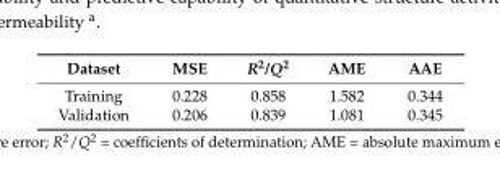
<table><thead><tr><td>Dataset</td><td>MSE</td><td>R<sup>2</sup>/Q<sup>2</sup></td><td>AME</td><td>AAE</td></tr></thead><tbody><tr><td>Training</td><td>0.228</td><td>0.858</td><td>1.582</td><td>0.344</td></tr><tr><td>Validation</td><td>0.206</td><td>0.839</td><td>1.081</td><td>0.345</td></tr></tbody></table>